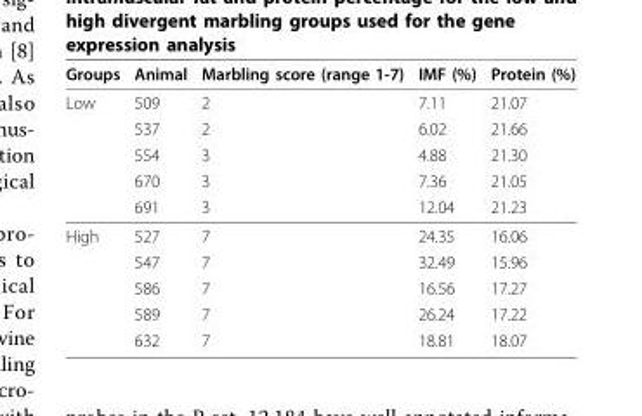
<table><thead><tr><td>Groups</td><td>Animal</td><td>Marbling score (range 1-7)</td><td>IMF (%)</td><td>Protein (%)</td></tr></thead><tbody><tr><td rowspan="5">Low</td><td>509</td><td>2</td><td>7.11</td><td>21.07</td></tr><tr><td>537</td><td>2</td><td>6.02</td><td>21.66</td></tr><tr><td>554</td><td>3</td><td>4.88</td><td>21.30</td></tr><tr><td>670</td><td>3</td><td>7.36</td><td>21.05</td></tr><tr><td>691</td><td>3</td><td>12.04</td><td>21.23</td></tr><tr><td rowspan="5">High</td><td>527</td><td>7</td><td>24.35</td><td>16.06</td></tr><tr><td>547</td><td>7</td><td>32.49</td><td>15.96</td></tr><tr><td>586</td><td>7</td><td>16.56</td><td>17.27</td></tr><tr><td>589</td><td>7</td><td>26.24</td><td>17.22</td></tr><tr><td>632</td><td>7</td><td>18.81</td><td>18.07</td></tr></tbody></table>